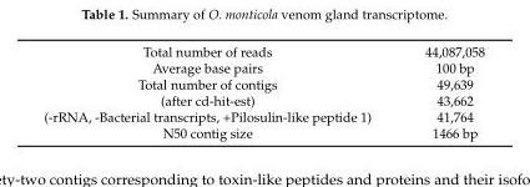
<table><tbody><tr><td>Total number of reads</td><td>44,087,058</td></tr><tr><td>Average base pairs</td><td>100 bp</td></tr><tr><td>Total number of contigs</td><td>49,639</td></tr><tr><td>(after cd-hit-est)</td><td>43,662</td></tr><tr><td>(-rRNA, -Bacterial transcripts, +Pilosulin-like peptide 1)</td><td>41,764</td></tr><tr><td>N50 contig size</td><td>1466 bp</td></tr></tbody></table>